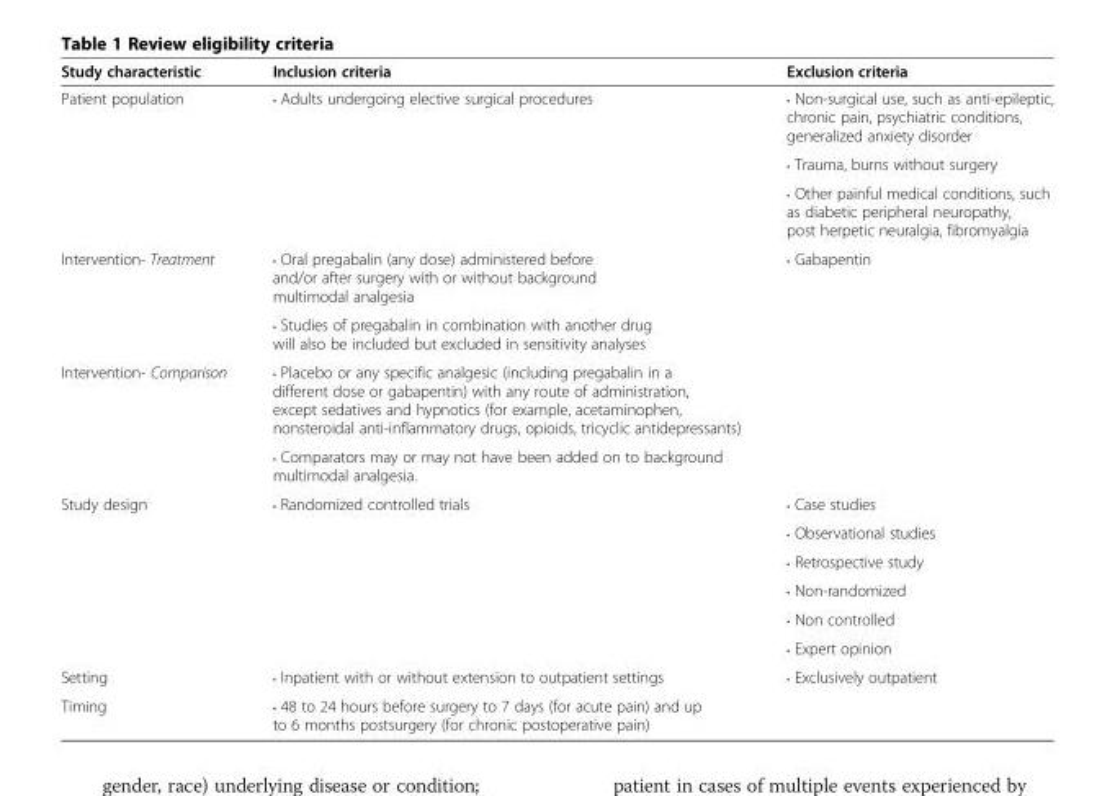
<table><thead><tr><td>Study characteristic</td><td>Inclusion criteria</td><td>Exclusion criteria</td></tr></thead><tbody><tr><td rowspan="3">Patient population</td><td>• Adults undergoing elective surgical procedures</td><td>• Non-surgical use, such as anti-epileptic, chronic pain, psychiatric conditions, generalized anxiety disorder</td></tr><tr><td></td><td>• Trauma, burns without surgery</td></tr><tr><td></td><td>• Other painful medical conditions, such as diabetic peripheral neuropathy, post herpetic neuralgia, fibromyalgia</td></tr><tr><td rowspan="2">Intervention- Treatment</td><td>• Oral pregabalin (any dose) administered before and/or after surgery with or without background multimodal analgesia</td><td>• Gabapentin</td></tr><tr><td>• Studies of pregabalin in combination with another drug will also be included but excluded in sensitivity analyses</td><td></td></tr><tr><td rowspan="2">Intervention- Comparison</td><td>• Placebo or any specific analgesic (including pregabalin in a different dose or gabapentin) with any route of administration, except sedatives and hypnotics (for example, acetaminophen, nonsteroidal anti-inflammatory drugs, opioids, tricyclic antidepressants)</td><td></td></tr><tr><td>• Comparators may or may not have been added on to background multimodal analgesia.</td><td></td></tr><tr><td rowspan="6">Study design</td><td>• Randomized controlled trials</td><td>• Case studies</td></tr><tr><td></td><td>• Observational studies</td></tr><tr><td></td><td>• Retrospective study</td></tr><tr><td></td><td>• Non-randomized</td></tr><tr><td></td><td>• Non controlled</td></tr><tr><td></td><td>• Expert opinion</td></tr><tr><td>Setting</td><td>• Inpatient with or without extension to outpatient settings</td><td>• Exclusively outpatient</td></tr><tr><td>Timing</td><td>• 48 to 24 hours before surgery to 7 days (for acute pain) and up to 6 months postsurgery (for chronic postoperative pain)</td><td></td></tr></tbody></table>